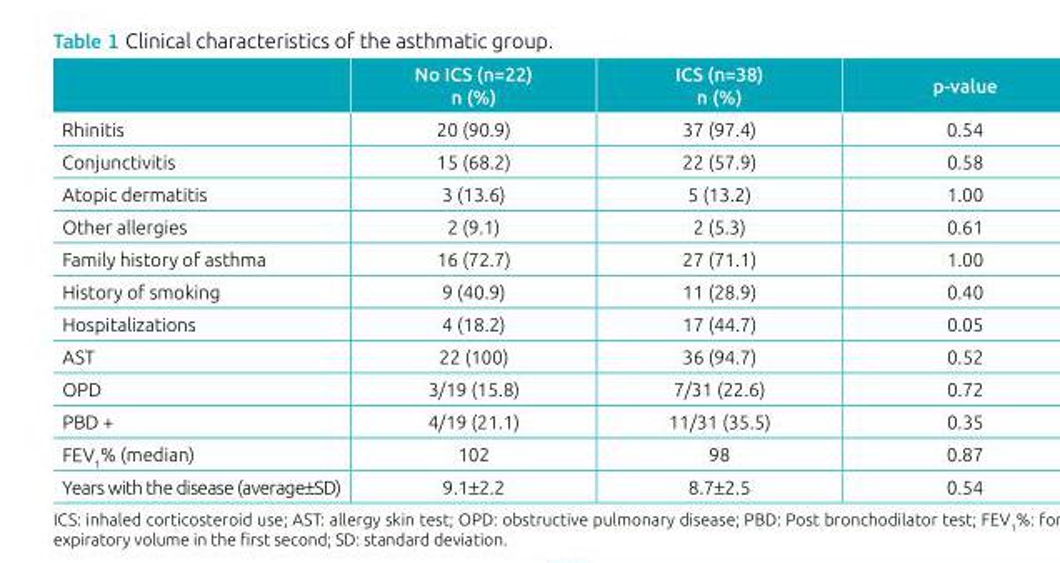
<table><thead><tr><td></td><td>No ICS (n=22) n (%)</td><td>ICS (n=38) n (%)</td><td>p‑value</td></tr></thead><tbody><tr><td>Rhinitis</td><td>20 (90.9)</td><td>37 (97.4)</td><td>0.54</td></tr><tr><td>Conjunctivitis</td><td>15 (68.2)</td><td>22 (57.9)</td><td>0.58</td></tr><tr><td>Atopic dermatitis</td><td>3 (13.6)</td><td>5 (13.2)</td><td>1.00</td></tr><tr><td>Other allergies</td><td>2 (9.1)</td><td>2 (5.3)</td><td>0.61</td></tr><tr><td>Family history of asthma</td><td>16 (72.7)</td><td>27 (71.1)</td><td>1.00</td></tr><tr><td>History of smoking</td><td>9 (40.9)</td><td>11 (28.9)</td><td>0.40</td></tr><tr><td>Hospitalizations</td><td>4 (18.2)</td><td>17 (44.7)</td><td>0.05</td></tr><tr><td>AST</td><td>22 (100)</td><td>36 (94.7)</td><td>0.52</td></tr><tr><td>OPD</td><td>3/19 (15.8)</td><td>7/31 (22.6)</td><td>0.72</td></tr><tr><td>PBD +</td><td>4/19 (21.1)</td><td>11/31 (35.5)</td><td>0.35</td></tr><tr><td>FEV<sub>1</sub>% (median)</td><td>102</td><td>98</td><td>0.87</td></tr><tr><td>Years with the disease (average±SD)</td><td>9.1±2.2</td><td>8.7±2.5</td><td>0.54</td></tr></tbody></table>